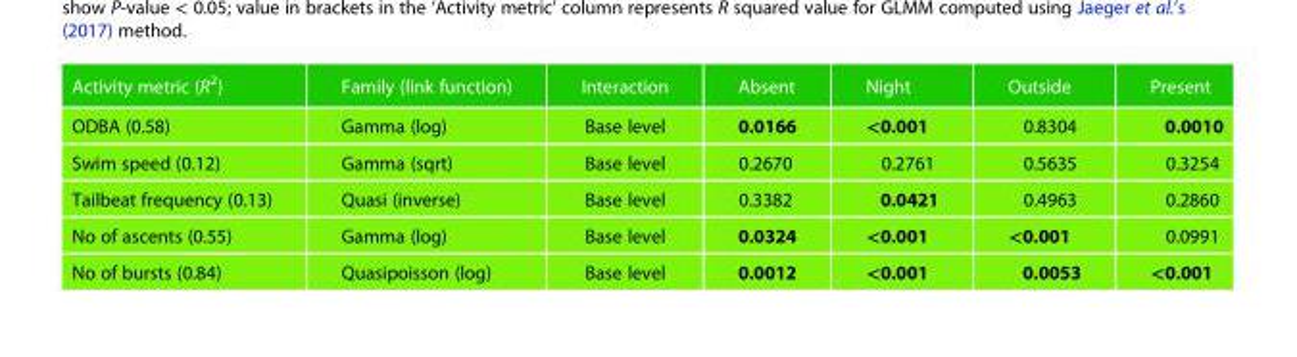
<table><thead><tr><td>Activity metric (R<sup>2</sup>)</td><td>Family (link function)</td><td>Interaction</td><td>Absent</td><td>Night</td><td>Outside</td><td>Present</td></tr></thead><tbody><tr><td>ODBA (0.58)</td><td>Gamma (log)</td><td>Base level</td><td>0.0166</td><td>&lt;0.001</td><td>0.8304</td><td>0.0010</td></tr><tr><td>Swim speed (0.12)</td><td>Gamma (sqrt)</td><td>Base level</td><td>0.2670</td><td>0.2761</td><td>0.5635</td><td>0.3254</td></tr><tr><td>Tailbeat frequency (0.13)</td><td>Quasi (inverse)</td><td>Base level</td><td>0.3382</td><td>0.0421</td><td>0.4963</td><td>0.2860</td></tr><tr><td>No of ascents (0.55)</td><td>Gamma (log)</td><td>Base level</td><td>0.0324</td><td>&lt;0.001</td><td>&lt;0.001</td><td>0.0991</td></tr><tr><td>No of bursts (0.84)</td><td>Quasipoisson (log)</td><td>Base level</td><td>0.0012</td><td>&lt;0.001</td><td>0.0053</td><td>&lt;0.001</td></tr></tbody></table>